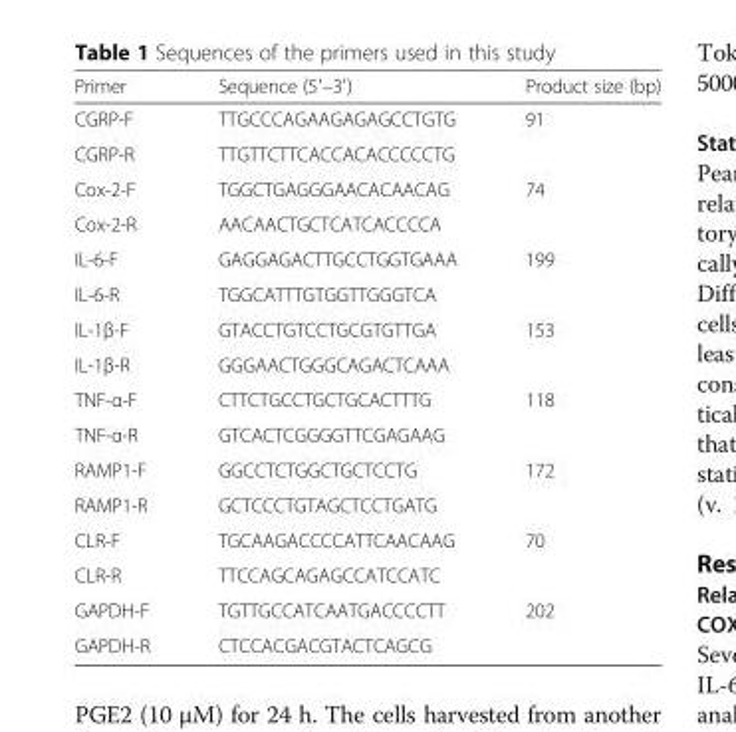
<table><thead><tr><td>Primer</td><td>Sequence (5′–3′)</td><td>Product size (bp)</td></tr></thead><tbody><tr><td>CGRP-F</td><td>TTGCCCAGAAGAGAGCCTGTG</td><td rowspan="2">91</td></tr><tr><td>CGRP-R</td><td>TTGTTCTTCACCACACCCCCTG</td></tr><tr><td>Cox-2-F</td><td>TGGCTGAGGGAACACAACAG</td><td rowspan="2">74</td></tr><tr><td>Cox-2-R</td><td>AACAACTGCTCATCACCCCA</td></tr><tr><td>IL-6-F</td><td>GAGGAGACTTGCCTGGTGAAA</td><td rowspan="2">199</td></tr><tr><td>IL-6-R</td><td>TGGCATTTGTGGTTGGGTCA</td></tr><tr><td>IL-1β-F</td><td>GTACCTGTCCTGCGTGTTGA</td><td rowspan="2">153</td></tr><tr><td>IL-1β-R</td><td>GGGAACTGGGCAGACTCAAA</td></tr><tr><td>TNF-α-F</td><td>CTTCTGCCTGCTGCACTTTG</td><td rowspan="2">118</td></tr><tr><td>TNF-α-R</td><td>GTCACTCGGGGTTCGAGAAG</td></tr><tr><td>RAMP1-F</td><td>GGCCTCTGGCTGCTCCTG</td><td rowspan="2">172</td></tr><tr><td>RAMP1-R</td><td>GCTCCCTGTAGCTCCTGATG</td></tr><tr><td>CLR-F</td><td>TGCAAGACCCCATTCAACAAG</td><td rowspan="2">70</td></tr><tr><td>CLR-R</td><td>TTCCAGCAGAGCCATCCATC</td></tr><tr><td>GAPDH-F</td><td>TGTTGCCATCAATGACCCCTT</td><td rowspan="2">202</td></tr><tr><td>GAPDH-R</td><td>CTCCACGACGTACTCAGCG</td></tr></tbody></table>